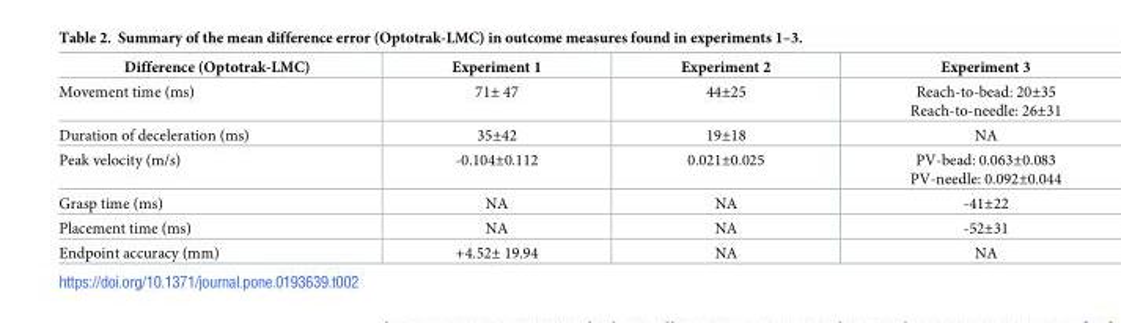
<table><thead><tr><td>Difference (Optotrak-LMC)</td><td>Experiment 1</td><td>Experiment 2</td><td>Experiment 3</td></tr></thead><tbody><tr><td>Movement time (ms)</td><td>71± 47</td><td>44±25</td><td>Reach-to-bead: 20±35 Reach-to-needle: 26±31</td></tr><tr><td>Duration of deceleration (ms)</td><td>35±42</td><td>19±18</td><td>NA</td></tr><tr><td>Peak velocity (m/s)</td><td>-0.104±0.112</td><td>0.021±0.025</td><td>PV-bead: 0.063±0.083 PV-needle: 0.092±0.044</td></tr><tr><td>Grasp time (ms)</td><td>NA</td><td>NA</td><td>-41±22</td></tr><tr><td>Placement time (ms)</td><td>NA</td><td>NA</td><td>-52±31</td></tr><tr><td>Endpoint accuracy (mm)</td><td>+4.52± 19.94</td><td>NA</td><td>NA</td></tr></tbody></table>